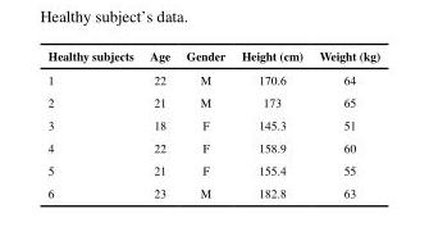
<table><thead><tr><td>Healthy subjects</td><td>Age</td><td>Gender</td><td>Height (cm)</td><td>Weight (kg)</td></tr></thead><tbody><tr><td>1</td><td>22</td><td>M</td><td>170.6</td><td>64</td></tr><tr><td>2</td><td>21</td><td>M</td><td>173</td><td>65</td></tr><tr><td>3</td><td>18</td><td>F</td><td>145.3</td><td>51</td></tr><tr><td>4</td><td>22</td><td>F</td><td>158.9</td><td>60</td></tr><tr><td>5</td><td>21</td><td>F</td><td>155.4</td><td>55</td></tr><tr><td>6</td><td>23</td><td>M</td><td>182.8</td><td>63</td></tr></tbody></table>